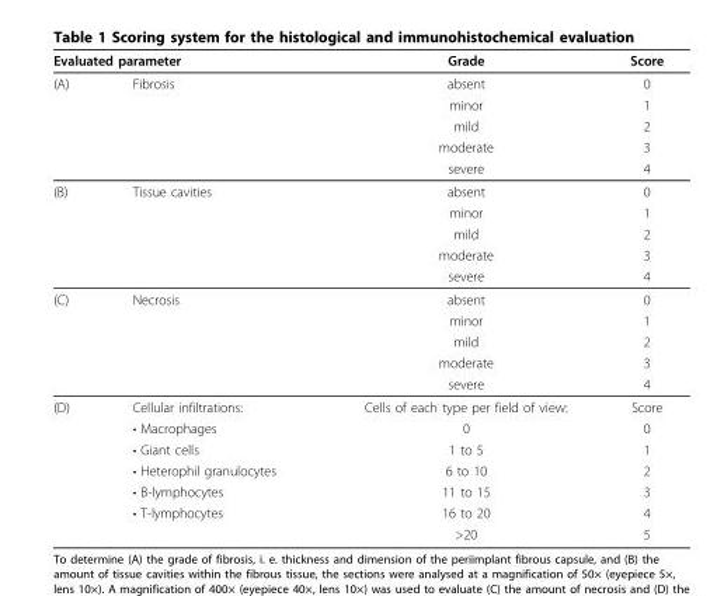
<table><thead><tr><td colspan="2">Evaluated parameter</td><td rowspan="2">Grade absent</td><td rowspan="2">Score 0</td></tr><tr><td>(A)</td><td>Fibrosis</td></tr></thead><tbody><tr><td></td><td></td><td>minor</td><td>1</td></tr><tr><td></td><td></td><td>mild</td><td>2</td></tr><tr><td></td><td></td><td>moderate</td><td>3</td></tr><tr><td></td><td></td><td>severe</td><td>4</td></tr><tr><td rowspan="5">(B)</td><td>Tissue cavities</td><td>absent</td><td>0</td></tr><tr><td></td><td>minor</td><td>1</td></tr><tr><td></td><td>mild</td><td>2</td></tr><tr><td></td><td>moderate</td><td>3</td></tr><tr><td></td><td>severe</td><td>4</td></tr><tr><td rowspan="5">(C)</td><td>Necrosis</td><td>absent</td><td>0</td></tr><tr><td></td><td>minor</td><td>1</td></tr><tr><td></td><td>mild</td><td>2</td></tr><tr><td></td><td>moderate</td><td>3</td></tr><tr><td></td><td>severe</td><td>4</td></tr><tr><td rowspan="7">(D)</td><td>Cellular infiltrations:</td><td>Cells of each type per field of view:</td><td>Score</td></tr><tr><td>• Macrophages</td><td>0</td><td>0</td></tr><tr><td>• Giant cells</td><td>1 to 5</td><td>1</td></tr><tr><td>• Heterophil granulocytes</td><td>6 to 10</td><td>2</td></tr><tr><td>• B-lymphocytes</td><td>11 to 15</td><td>3</td></tr><tr><td>• T-lymphocytes</td><td>16 to 20</td><td>4</td></tr><tr><td></td><td>&gt;20</td><td>5</td></tr></tbody></table>